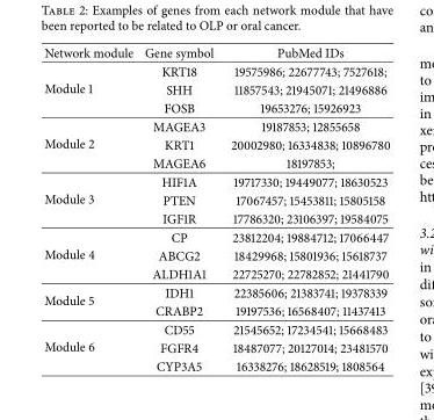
<table><tbody><tr><td>Network module</td><td>Gene symbol</td><td>PubMed IDs</td></tr><tr><td rowspan="3">Module 1</td><td>KRT18</td><td>19575986; 22677743; 7527618;</td></tr><tr><td>SHH</td><td>11857543; 21945071; 21496886</td></tr><tr><td>FOSB</td><td>19653276; 15926923</td></tr><tr><td rowspan="3">Module 2</td><td>MAGEA3</td><td>19187853; 12855658</td></tr><tr><td>KRT1</td><td>20002980; 16334838; 10896780</td></tr><tr><td>MAGEA6</td><td>18197853;</td></tr><tr><td rowspan="3">Module 3</td><td>HIF1A</td><td>19717330; 19449077; 18630523</td></tr><tr><td>PTEN</td><td>17067457; 15453811; 15805158</td></tr><tr><td>IGF1R</td><td>17786320; 23106397; 19584075</td></tr><tr><td rowspan="3">Module 4</td><td>CP</td><td>23812204; 19884712; 17066447</td></tr><tr><td>ABCG2</td><td>18429968; 15801936; 15618737</td></tr><tr><td>ALDH1A1</td><td>22725270; 22782852; 21441790</td></tr><tr><td rowspan="2">Module 5</td><td>IDH1</td><td>22385606; 21383741; 19378339</td></tr><tr><td>CRABP2</td><td>19197536; 16568407; 11437413</td></tr><tr><td rowspan="3">Module 6</td><td>CD55</td><td>21545652; 17234541; 15668483</td></tr><tr><td>FGFR4</td><td>18487077; 20127014; 23481570</td></tr><tr><td>CYP3A5</td><td>16338276; 18628519; 1808564</td></tr></tbody></table>